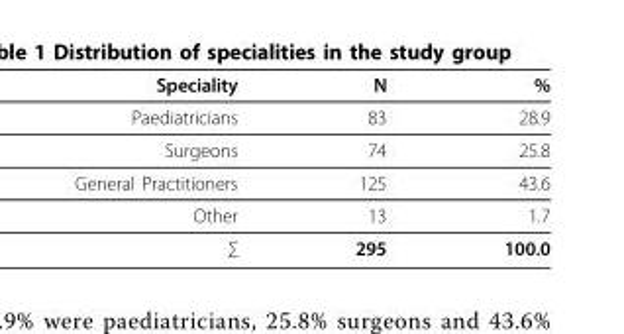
<table><thead><tr><td>Speciality</td><td>N</td><td>%</td></tr></thead><tbody><tr><td>Paediatricians</td><td>83</td><td>28.9</td></tr><tr><td>Surgeons</td><td>74</td><td>25.8</td></tr><tr><td>General Practitioners</td><td>125</td><td>43.6</td></tr><tr><td>Other</td><td>13</td><td>1.7</td></tr><tr><td>∑</td><td>295</td><td>100.0</td></tr></tbody></table>